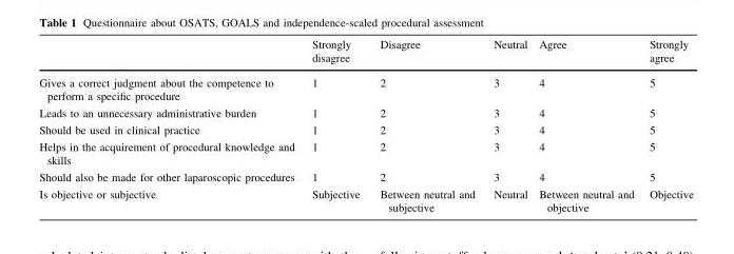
<table><thead><tr><td></td><td>Strongly disagree</td><td>Disagree</td><td>Neutral</td><td>Agree</td><td>Strongly agree</td></tr></thead><tbody><tr><td>Gives a correct judgment about the competence to perform a specific procedure</td><td>1</td><td>2</td><td>3</td><td>4</td><td>5</td></tr><tr><td>Leads to an unnecessary administrative burden</td><td>1</td><td>2</td><td>3</td><td>4</td><td>5</td></tr><tr><td>Should be used in clinical practice</td><td>1</td><td>2</td><td>3</td><td>4</td><td>5</td></tr><tr><td>Helps in the acquirement of procedural knowledge and skills</td><td>1</td><td>2</td><td>3</td><td>4</td><td>5</td></tr><tr><td>Should also be made for other laparoscopic procedures</td><td>1</td><td>2</td><td>3</td><td>4</td><td>5</td></tr><tr><td>Is objective or subjective</td><td>Subjective</td><td>Between neutral and subjective</td><td>Neutral</td><td>Between neutral and objective</td><td>Objective</td></tr></tbody></table>